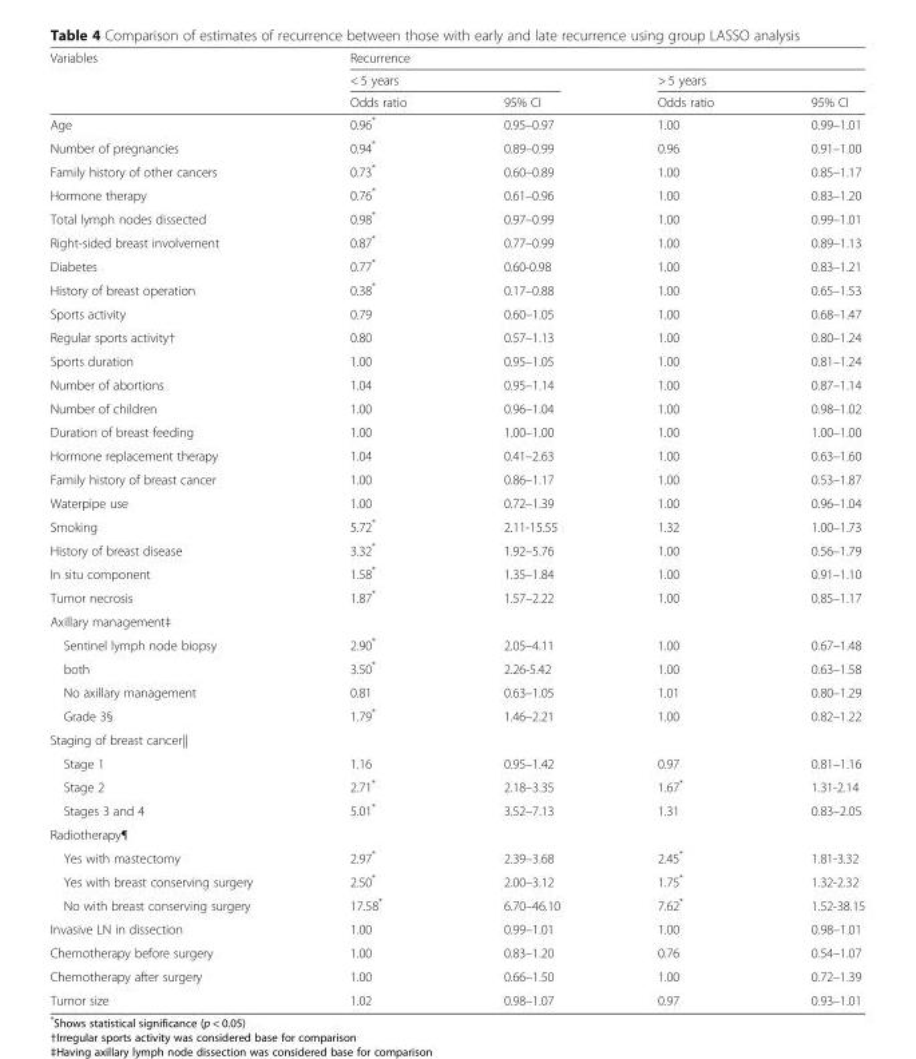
<table><thead><tr><td rowspan="3">Variables</td><td colspan="4">Recurrence</td></tr><tr><td colspan="2">&lt; 5 years</td><td colspan="2">&gt; 5 years</td></tr><tr><td>Odds ratio</td><td>95% CI</td><td>Odds ratio</td><td>95% CI</td></tr></thead><tbody><tr><td>Age</td><td>0.96*</td><td>0.95–0.97</td><td>1.00</td><td>0.99–1.01</td></tr><tr><td>Number of pregnancies</td><td>0.94*</td><td>0.89–0.99</td><td>0.96</td><td>0.91–1.00</td></tr><tr><td>Family history of other cancers</td><td>0.73*</td><td>0.60–0.89</td><td>1.00</td><td>0.85–1.17</td></tr><tr><td>Hormone therapy</td><td>0.76*</td><td>0.61–0.96</td><td>1.00</td><td>0.83–1.20</td></tr><tr><td>Total lymph nodes dissected</td><td>0.98*</td><td>0.97–0.99</td><td>1.00</td><td>0.99–1.01</td></tr><tr><td>Right-sided breast involvement</td><td>0.87*</td><td>0.77–0.99</td><td>1.00</td><td>0.89–1.13</td></tr><tr><td>Diabetes</td><td>0.77*</td><td>0.60-0.98</td><td>1.00</td><td>0.83–1.21</td></tr><tr><td>History of breast operation</td><td>0.38*</td><td>0.17–0.88</td><td>1.00</td><td>0.65–1.53</td></tr><tr><td>Sports activity</td><td>0.79</td><td>0.60–1.05</td><td>1.00</td><td>0.68–1.47</td></tr><tr><td>Regular sports activity†</td><td>0.80</td><td>0.57–1.13</td><td>1.00</td><td>0.80–1.24</td></tr><tr><td>Sports duration</td><td>1.00</td><td>0.95–1.05</td><td>1.00</td><td>0.81–1.24</td></tr><tr><td>Number of abortions</td><td>1.04</td><td>0.95–1.14</td><td>1.00</td><td>0.87–1.14</td></tr><tr><td>Number of children</td><td>1.00</td><td>0.96–1.04</td><td>1.00</td><td>0.98–1.02</td></tr><tr><td>Duration of breast feeding</td><td>1.00</td><td>1.00–1.00</td><td>1.00</td><td>1.00–1.00</td></tr><tr><td>Hormone replacement therapy</td><td>1.04</td><td>0.41–2.63</td><td>1.00</td><td>0.63–1.60</td></tr><tr><td>Family history of breast cancer</td><td>1.00</td><td>0.86–1.17</td><td>1.00</td><td>0.53–1.87</td></tr><tr><td>Waterpipe use</td><td>1.00</td><td>0.72–1.39</td><td>1.00</td><td>0.96–1.04</td></tr><tr><td>Smoking</td><td>5.72*</td><td>2.11-15.55</td><td>1.32</td><td>1.00–1.73</td></tr><tr><td>History of breast disease</td><td>3.32*</td><td>1.92–5.76</td><td>1.00</td><td>0.56–1.79</td></tr><tr><td>In situ component</td><td>1.58*</td><td>1.35–1.84</td><td>1.00</td><td>0.91–1.10</td></tr><tr><td>Tumor necrosis</td><td>1.87*</td><td>1.57–2.22</td><td>1.00</td><td>0.85–1.17</td></tr><tr><td colspan="5">Axillary management‡</td></tr><tr><td>Sentinel lymph node biopsy</td><td>2.90*</td><td>2.05–4.11</td><td>1.00</td><td>0.67–1.48</td></tr><tr><td>both</td><td>3.50*</td><td>2.26-5.42</td><td>1.00</td><td>0.63–1.58</td></tr><tr><td>No axillary management</td><td>0.81</td><td>0.63–1.05</td><td>1.01</td><td>0.80–1.29</td></tr><tr><td>Grade 3§</td><td>1.79*</td><td>1.46–2.21</td><td>1.00</td><td>0.82–1.22</td></tr><tr><td colspan="5">Staging of breast cancer||</td></tr><tr><td>Stage 1</td><td>1.16</td><td>0.95–1.42</td><td>0.97</td><td>0.81–1.16</td></tr><tr><td>Stage 2</td><td>2.71*</td><td>2.18–3.35</td><td>1.67*</td><td>1.31-2.14</td></tr><tr><td>Stages 3 and 4</td><td>5.01*</td><td>3.52–7.13</td><td>1.31</td><td>0.83–2.05</td></tr><tr><td colspan="5">Radiotherapy¶</td></tr><tr><td>Yes with mastectomy</td><td>2.97*</td><td>2.39–3.68</td><td>2.45*</td><td>1.81-3.32</td></tr><tr><td>Yes with breast conserving surgery</td><td>2.50*</td><td>2.00–3.12</td><td>1.75*</td><td>1.32-2.32</td></tr><tr><td>No with breast conserving surgery</td><td>17.58*</td><td>6.70–46.10</td><td>7.62*</td><td>1.52-38.15</td></tr><tr><td>Invasive LN in dissection</td><td>1.00</td><td>0.99–1.01</td><td>1.00</td><td>0.98–1.01</td></tr><tr><td>Chemotherapy before surgery</td><td>1.00</td><td>0.83–1.20</td><td>0.76</td><td>0.54–1.07</td></tr><tr><td>Chemotherapy after surgery</td><td>1.00</td><td>0.66–1.50</td><td>1.00</td><td>0.72–1.39</td></tr><tr><td>Tumor size</td><td>1.02</td><td>0.98–1.07</td><td>0.97</td><td>0.93–1.01</td></tr></tbody></table>